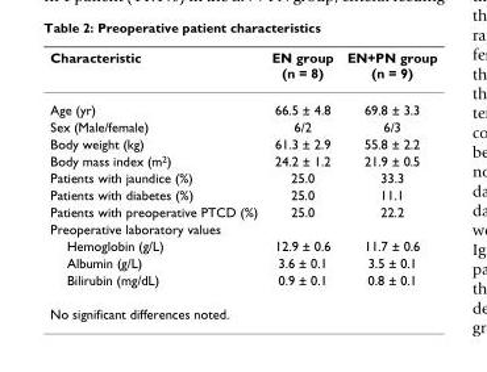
<table><thead><tr><td>Characteristic</td><td>EN group (n = 8)</td><td>EN+PN group (n = 9)</td></tr></thead><tbody><tr><td>Age (yr)</td><td>66.5 ± 4.8</td><td>69.8 ± 3.3</td></tr><tr><td>Sex (Male/female)</td><td>6/2</td><td>6/3</td></tr><tr><td>Body weight (kg)</td><td>61.3 ± 2.9</td><td>55.8 ± 2.2</td></tr><tr><td>Body mass index (m<sup>2</sup>)</td><td>24.2 ± 1.2</td><td>21.9 ± 0.5</td></tr><tr><td>Patients with jaundice (%)</td><td>25.0</td><td>33.3</td></tr><tr><td>Patients with diabetes (%)</td><td>25.0</td><td>11.1</td></tr><tr><td>Patients with preoperative PTCD (%)</td><td>25.0</td><td>22.2</td></tr><tr><td colspan="3">Preoperative laboratory values</td></tr><tr><td>Hemoglobin (g/L)</td><td>12.9 ± 0.6</td><td>11.7 ± 0.6</td></tr><tr><td>Albumin (g/L)</td><td>3.6 ± 0.1</td><td>3.5 ± 0.1</td></tr><tr><td>Bilirubin (mg/dL)</td><td>0.9 ± 0.1</td><td>0.8 ± 0.1</td></tr><tr><td>No significant differences noted.</td><td></td><td></td></tr></tbody></table>